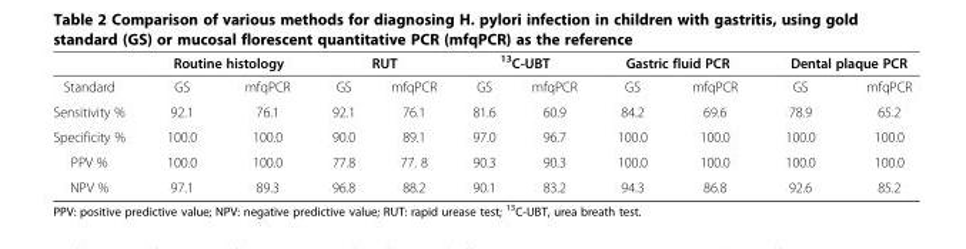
<table><thead><tr><td rowspan="2">Standard</td><td colspan="2">Routine histology</td><td colspan="2">RUT</td><td colspan="2"><sup>13</sup>C-UBT</td><td colspan="2">Gastric fluid PCR</td><td colspan="2">Dental plaque PCR</td></tr><tr><td>GS</td><td>mfqPCR</td><td>GS</td><td>mfqPCR</td><td>GS</td><td>mfqPCR</td><td>GS</td><td>mfqPCR</td><td>GS</td><td>mfqPCR</td></tr></thead><tbody><tr><td>Sensitivity %</td><td>92.1</td><td>76.1</td><td>92.1</td><td>76.1</td><td>81.6</td><td>60.9</td><td>84.2</td><td>69.6</td><td>78.9</td><td>65.2</td></tr><tr><td>Specificity %</td><td>100.0</td><td>100.0</td><td>90.0</td><td>89.1</td><td>97.0</td><td>96.7</td><td>100.0</td><td>100.0</td><td>100.0</td><td>100.0</td></tr><tr><td>PPV %</td><td>100.0</td><td>100.0</td><td>77.8</td><td>77. 8</td><td>90.3</td><td>90.3</td><td>100.0</td><td>100.0</td><td>100.0</td><td>100.0</td></tr><tr><td>NPV %</td><td>97.1</td><td>89.3</td><td>96.8</td><td>88.2</td><td>90.1</td><td>83.2</td><td>94.3</td><td>86.8</td><td>92.6</td><td>85.2</td></tr></tbody></table>